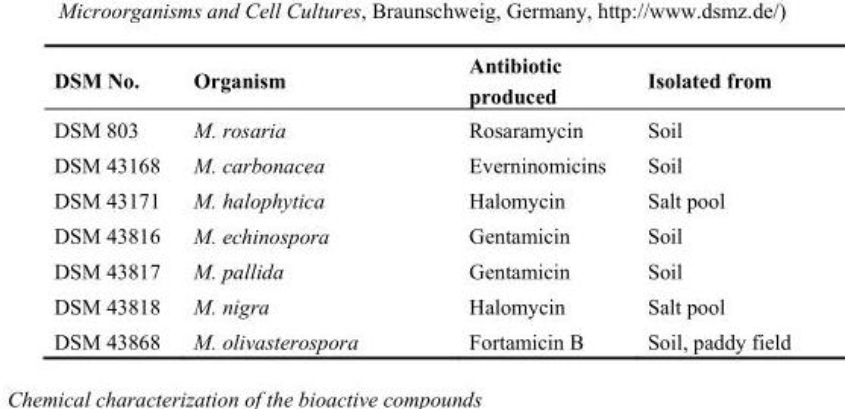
<table><thead><tr><td>DSM No.</td><td>Organism</td><td>Antibiotic produced</td><td>Isolated from</td></tr></thead><tbody><tr><td>DSM 803</td><td>M. rosaria</td><td>Rosaramycin</td><td>Soil</td></tr><tr><td>DSM 43168</td><td>M. carbonacea</td><td>Everninomicins</td><td>Soil</td></tr><tr><td>DSM 43171</td><td>M. halophytica</td><td>Halomycin</td><td>Salt pool</td></tr><tr><td>DSM 43816</td><td>M. echinospora</td><td>Gentamicin</td><td>Soil</td></tr><tr><td>DSM 43817</td><td>M. pallida</td><td>Gentamicin</td><td>Soil</td></tr><tr><td>DSM 43818</td><td>M. nigra</td><td>Halomycin</td><td>Salt pool</td></tr><tr><td>DSM 43868</td><td>M. olivasterospora</td><td>Fortamicin B</td><td>Soil, paddy field</td></tr></tbody></table>